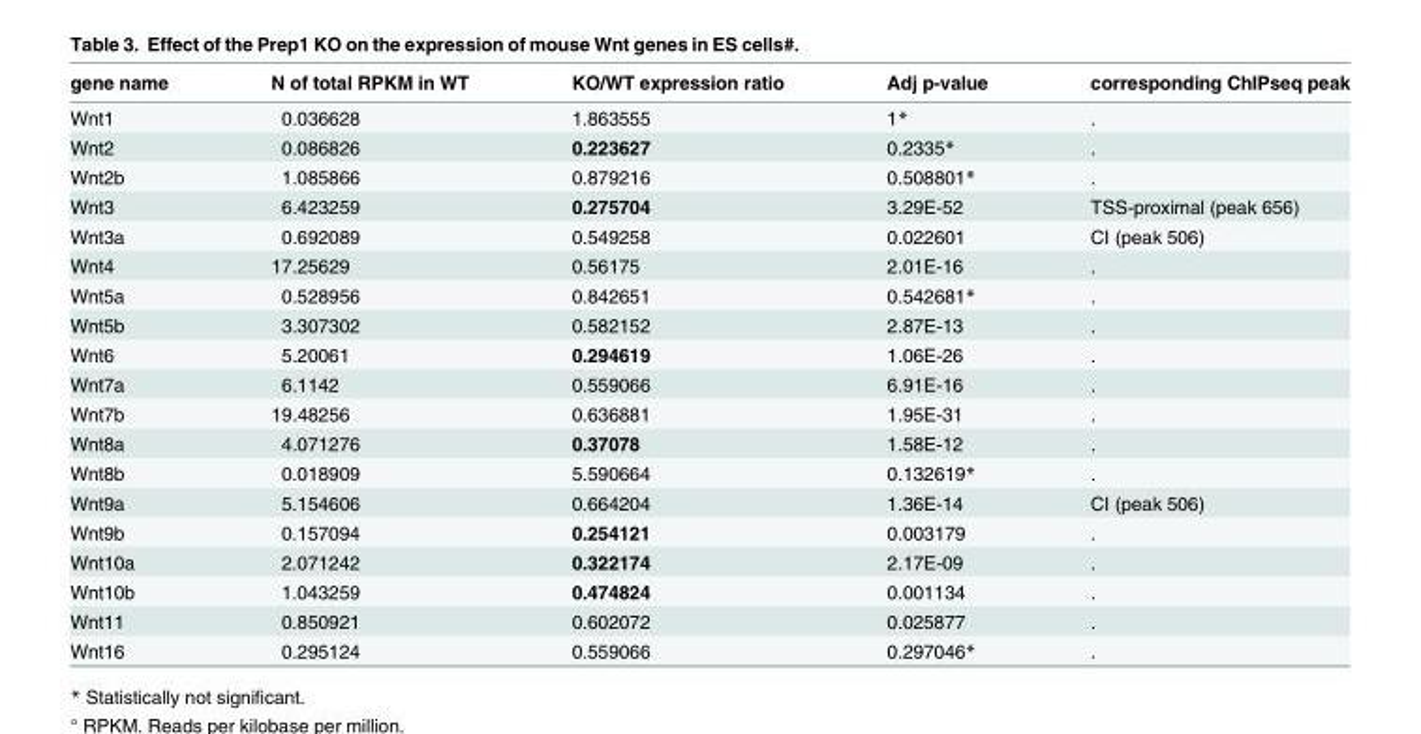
<table><thead><tr><td>gene name</td><td>N of total RPKM in WT</td><td>KO/WT expression ratio</td><td>Adj p-value</td><td>corresponding ChIPseq peak</td></tr></thead><tbody><tr><td>Wnt1</td><td>0.036628</td><td>1.863555</td><td>1*</td><td>.</td></tr><tr><td>Wnt2</td><td>0.086826</td><td>0.223627</td><td>0.2335*</td><td>.</td></tr><tr><td>Wnt2b</td><td>1.085866</td><td>0.879216</td><td>0.508801*</td><td>.</td></tr><tr><td>Wnt3</td><td>6.423259</td><td>0.275704</td><td>3.29E-52</td><td>TSS-proximal (peak 656)</td></tr><tr><td>Wnt3a</td><td>0.692089</td><td>0.549258</td><td>0.022601</td><td>CI (peak 506)</td></tr><tr><td>Wnt4</td><td>17.25629</td><td>0.56175</td><td>2.01E-16</td><td>.</td></tr><tr><td>Wnt5a</td><td>0.528956</td><td>0.842651</td><td>0.542681*</td><td>.</td></tr><tr><td>Wnt5b</td><td>3.307302</td><td>0.582152</td><td>2.87E-13</td><td>.</td></tr><tr><td>Wnt6</td><td>5.20061</td><td>0.294619</td><td>1.06E-26</td><td>.</td></tr><tr><td>Wnt7a</td><td>6.1142</td><td>0.559066</td><td>6.91E-16</td><td>.</td></tr><tr><td>Wnt7b</td><td>19.48256</td><td>0.636881</td><td>1.95E-31</td><td>.</td></tr><tr><td>Wnt8a</td><td>4.071276</td><td>0.37078</td><td>1.58E-12</td><td>.</td></tr><tr><td>Wnt8b</td><td>0.018909</td><td>5.590664</td><td>0.132619*</td><td>.</td></tr><tr><td>Wnt9a</td><td>5.154606</td><td>0.664204</td><td>1.36E-14</td><td>CI (peak 506)</td></tr><tr><td>Wnt9b</td><td>0.157094</td><td>0.254121</td><td>0.003179</td><td>.</td></tr><tr><td>Wnt10a</td><td>2.071242</td><td>0.322174</td><td>2.17E-09</td><td>.</td></tr><tr><td>Wnt10b</td><td>1.043259</td><td>0.474824</td><td>0.001134</td><td>.</td></tr><tr><td>Wnt11</td><td>0.850921</td><td>0.602072</td><td>0.025877</td><td>.</td></tr><tr><td>Wnt16</td><td>0.295124</td><td>0.559066</td><td>0.297046*</td><td>.</td></tr></tbody></table>